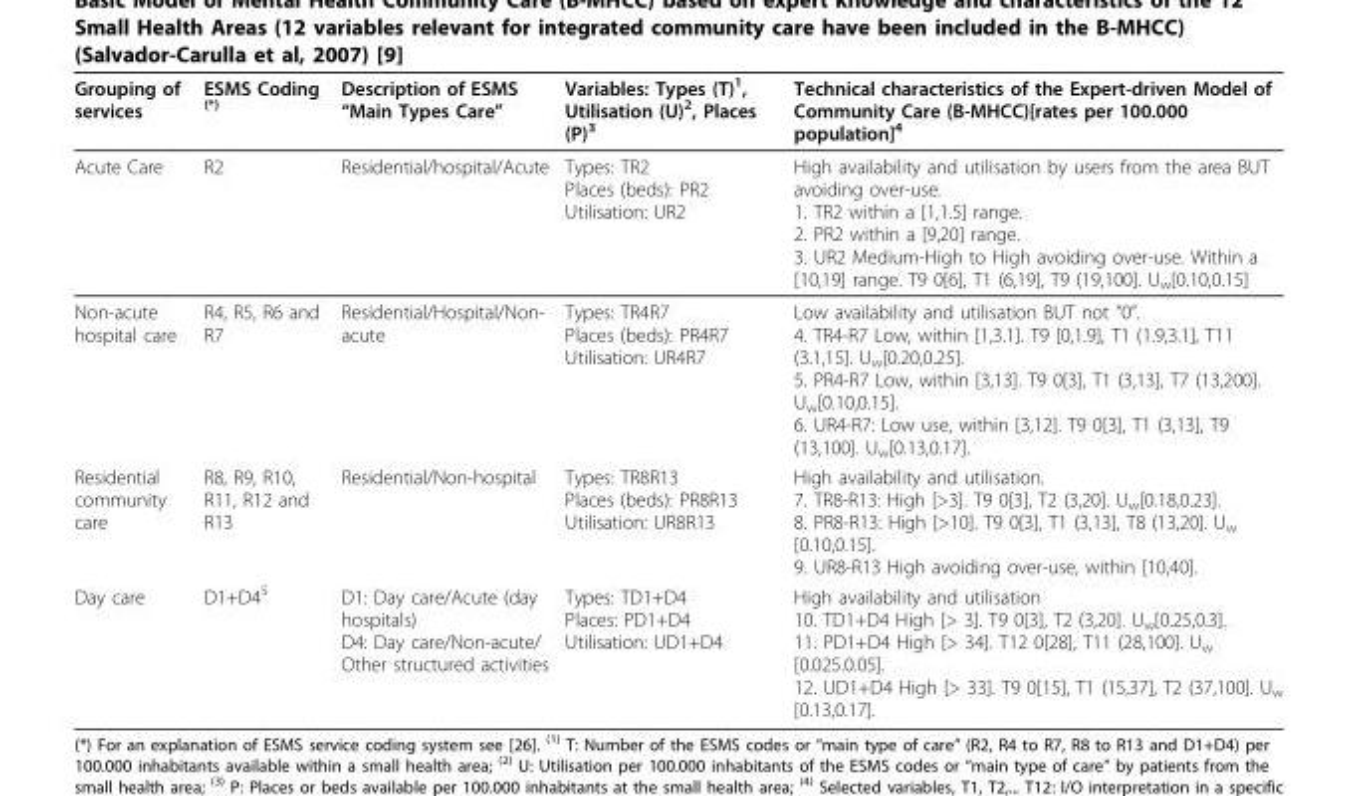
<table><thead><tr><td>Grouping of services</td><td>ESMS Coding <sup>(*)</sup></td><td>Description of ESMS “Main Types Care”</td><td>Variables: Types (T)<sup>1</sup>, Utilisation (U)<sup>2</sup>, Places (P)<sup>3</sup></td><td>Technical characteristics of the Expert-driven Model of Community Care (B-MHCC)[rates per 100.000 population]<sup>4</sup></td></tr></thead><tbody><tr><td>Acute Care</td><td>R2</td><td>Residential/hospital/Acute</td><td>Types: TR2 Places (beds): PR2 Utilisation: UR2</td><td>High availability and utilisation by users from the area BUT avoiding over-use. 1. TR2 within a [1,1.5] range. 2. PR2 within a [9,20] range. 3. UR2 Medium-High to High avoiding over-use. Within a [10,19] range. T9 0[6], T1 (6,19], T9 (19,100]. U<sub>w</sub>[0.10,0.15]</td></tr><tr><td>Non-acute hospital care</td><td>R4, R5, R6 and R7</td><td>Residential/Hospital/Non- acute</td><td>Types: TR4R7 Places (beds): PR4R7 Utilisation: UR4R7</td><td>Low availability and utilisation BUT not “0”. 4. TR4-R7 Low, within [1,3.1]. T9 [0,1.9], T1 (1.9,3.1], T11 (3.1,15]. Uw[0.20,0.25]. 5. PR4-R7 Low, within [3,13]. T9 0[3], T1 (3,13], T7 (13,200]. Uw[0.10,0.15]. 6. UR4-R7: Low use, within [3,12]. T9 0[3], T1 (3,13], T9 (13,100]. Uw[0.13,0.17].</td></tr><tr><td>Residential community care</td><td>R8, R9, R10, R11, R12 and R13</td><td>Residential/Non-hospital</td><td>Types: TR8R13 Places (beds): PR8R13 Utilisation: UR8R13</td><td>High availability and utilisation. 7. TR8-R13: High [&gt;3]. T9 0[3], T2 (3,20]. U<sub>w</sub>[0.18,0.23]. 8. PR8-R13: High [&gt;10]. T9 0[3], T1 (3,13], T8 (13,20]. U<sub>w</sub> [0.10,0.15]. 9. UR8-R13 High avoiding over-use, within [10,40].</td></tr><tr><td>Day care</td><td>D1+D4<sup>5</sup></td><td>D1: Day care/Acute (day hospitals) D4: Day care/Non-acute/ Other structured activities</td><td>Types: TD1+D4 Places: PD1+D4 Utilisation: UD1+D4</td><td>High availability and utilisation 10. TD1+D4 High [&gt; 3]. T9 0[3], T2 (3,20]. U<sub>w</sub>[0.25,0.3]. 11. PD1+D4 High [&gt; 34]. T12 0[28], T11 (28,100]. U<sub>w</sub> [0.025.0.05]. 12. UD1+D4 High [&gt; 33]. T9 0[15], T1 (15,37], T2 (37,100]. U<sub>w</sub> [0.13,0.17].</td></tr></tbody></table>